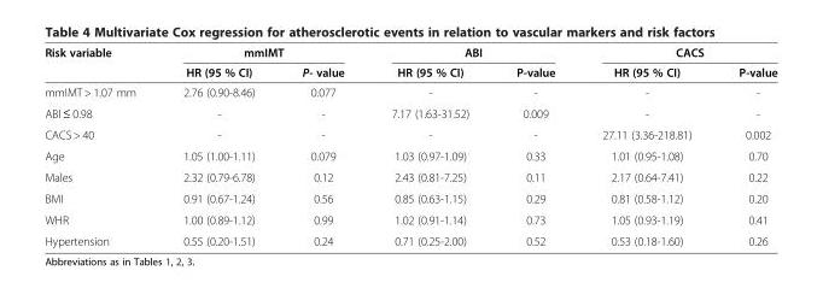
<table><thead><tr><td rowspan="2">Risk variable</td><td colspan="2">mmIMT</td><td colspan="2">ABI</td><td colspan="2">CACS</td></tr><tr><td>HR (95 % CI)</td><td>P- value</td><td>HR (95 % CI)</td><td>P-value</td><td>HR (95 % CI)</td><td>P-value</td></tr></thead><tbody><tr><td>mmIMT &gt; 1.07 mm</td><td>2.76 (0.90-8.46)</td><td>0.077</td><td>-</td><td>-</td><td>-</td><td>-</td></tr><tr><td>ABI ≤ 0.98</td><td>-</td><td>-</td><td>7.17 (1.63-31.52)</td><td>0.009</td><td>-</td><td>-</td></tr><tr><td>CACS &gt; 40</td><td>-</td><td>-</td><td>-</td><td>-</td><td>27.11 (3.36-218.81)</td><td>0.002</td></tr><tr><td>Age</td><td>1.05 (1.00-1.11)</td><td>0.079</td><td>1.03 (0.97-1.09)</td><td>0.33</td><td>1.01 (0.95-1.08)</td><td>0.70</td></tr><tr><td>Males</td><td>2.32 (0.79-6.78)</td><td>0.12</td><td>2.43 (0.81-7.25)</td><td>0.11</td><td>2.17 (0.64-7.41)</td><td>0.22</td></tr><tr><td>BMI</td><td>0.91 (0.67-1.24)</td><td>0.56</td><td>0.85 (0.63-1.15)</td><td>0.29</td><td>0.81 (0.58-1.12)</td><td>0.20</td></tr><tr><td>WHR</td><td>1.00 (0.89-1.12)</td><td>0.99</td><td>1.02 (0.91-1.14)</td><td>0.73</td><td>1.05 (0.93-1.19)</td><td>0.41</td></tr><tr><td>Hypertension</td><td>0.55 (0.20-1.51)</td><td>0.24</td><td>0.71 (0.25-2.00)</td><td>0.52</td><td>0.53 (0.18-1.60)</td><td>0.26</td></tr></tbody></table>